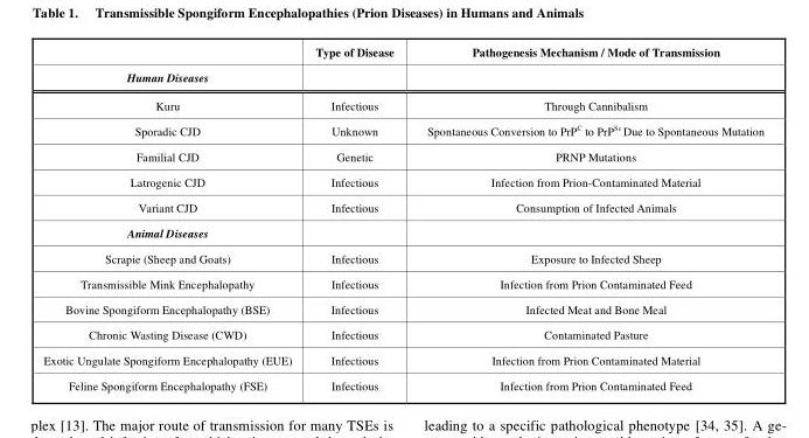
<table><thead><tr><td></td><td>Type of Disease</td><td>Pathogenesis Mechanism / Mode of Transmission</td></tr></thead><tbody><tr><td colspan="3">Human Diseases</td></tr><tr><td>Kuru</td><td>Infectious</td><td>Through Cannibalism</td></tr><tr><td>Sporadic CJD</td><td>Unknown</td><td>Spontaneous Conversion to PrP<sup>C</sup> to PrP<sup>Sc</sup> Due to Spontaneous Mutation</td></tr><tr><td>Familial CJD</td><td>Genetic</td><td>PRNP Mutations</td></tr><tr><td>Latrogenic CJD</td><td>Infectious</td><td>Infection from Prion-Contaminated Material</td></tr><tr><td>Variant CJD</td><td>Infectious</td><td>Consumption of Infected Animals</td></tr><tr><td colspan="3">Animal Diseases</td></tr><tr><td>Scrapie (Sheep and Goats)</td><td>Infectious</td><td>Exposure to Infected Sheep</td></tr><tr><td>Transmissible Mink Encephalopathy</td><td>Infectious</td><td>Infection from Prion Contaminated Feed</td></tr><tr><td>Bovine Spongiform Encephalopathy (BSE)</td><td>Infectious</td><td>Infected Meat and Bone Meal</td></tr><tr><td>Chronic Wasting Disease (CWD)</td><td>Infectious</td><td>Contaminated Pasture</td></tr><tr><td>Exotic Ungulate Spongiform Encephalopathy (EUE)</td><td>Infectious</td><td>Infection from Prion Contaminated Material</td></tr><tr><td>Feline Spongiform Encephalopathy (FSE)</td><td>Infectious</td><td>Infection from Prion Contaminated Feed</td></tr></tbody></table>